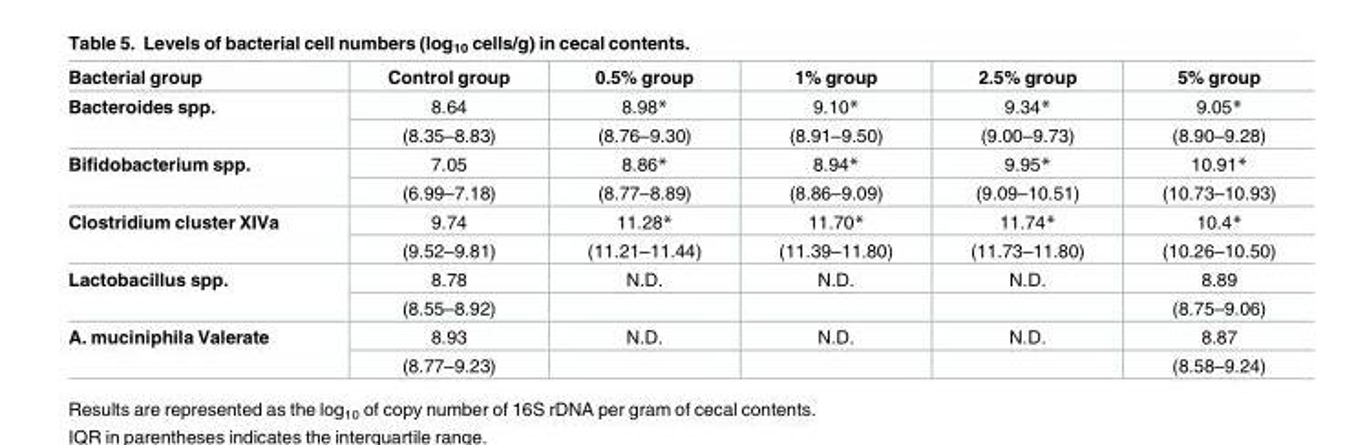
<table><thead><tr><td>Bacterial group</td><td>Control group</td><td>0.5% group</td><td>1% group</td><td>2.5% group</td><td>5% group</td></tr></thead><tbody><tr><td rowspan="2">Bacteroides spp.</td><td>8.64</td><td>8.98*</td><td>9.10*</td><td>9.34*</td><td>9.05*</td></tr><tr><td>(8.35–8.83)</td><td>(8.76–9.30)</td><td>(8.91–9.50)</td><td>(9.00–9.73)</td><td>(8.90–9.28)</td></tr><tr><td rowspan="2">Bifidobacterium spp.</td><td>7.05</td><td>8.86*</td><td>8.94*</td><td>9.95*</td><td>10.91*</td></tr><tr><td>(6.99–7.18)</td><td>(8.77–8.89)</td><td>(8.86–9.09)</td><td>(9.09–10.51)</td><td>(10.73–10.93)</td></tr><tr><td rowspan="2">Clostridium cluster XIVa</td><td>9.74</td><td>11.28*</td><td>11.70*</td><td>11.74*</td><td>10.4*</td></tr><tr><td>(9.52–9.81)</td><td>(11.21–11.44)</td><td>(11.39–11.80)</td><td>(11.73–11.80)</td><td>(10.26–10.50)</td></tr><tr><td rowspan="2">Lactobacillus spp.</td><td>8.78</td><td>N.D.</td><td>N.D.</td><td>N.D.</td><td>8.89</td></tr><tr><td>(8.55–8.92)</td><td></td><td></td><td></td><td>(8.75–9.06)</td></tr><tr><td rowspan="2">A. muciniphila Valerate</td><td>8.93</td><td>N.D.</td><td>N.D.</td><td>N.D.</td><td>8.87</td></tr><tr><td>(8.77–9.23)</td><td></td><td></td><td></td><td>(8.58–9.24)</td></tr></tbody></table>